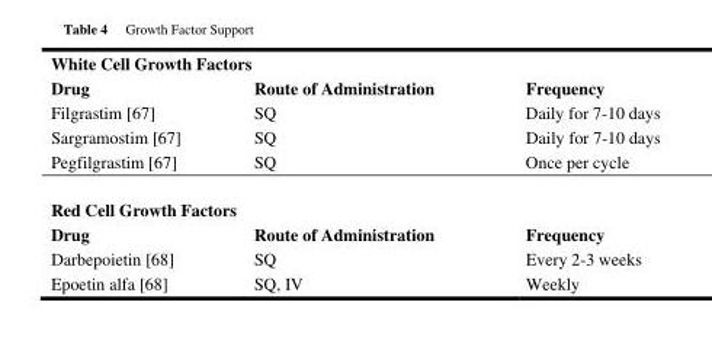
<table><thead><tr><td colspan="3">White Cell Growth Factors</td></tr><tr><td>Drug</td><td>Route of Administration</td><td>Frequency</td></tr></thead><tbody><tr><td>Filgrastim [67]</td><td>SQ</td><td>Daily for 7-10 days</td></tr><tr><td>Sargramostim [67]</td><td>SQ</td><td>Daily for 7-10 days</td></tr><tr><td>Pegfilgrastim [67]</td><td>SQ</td><td>Once per cycle</td></tr><tr><td colspan="3">Red Cell Growth Factors</td></tr><tr><td>Drug</td><td>Route of Administration</td><td>Frequency</td></tr><tr><td>Darbepoietin [68]</td><td>SQ</td><td>Every 2-3 weeks</td></tr><tr><td>Epoetin alfa [68]</td><td>SQ, IV</td><td>Weekly</td></tr></tbody></table>